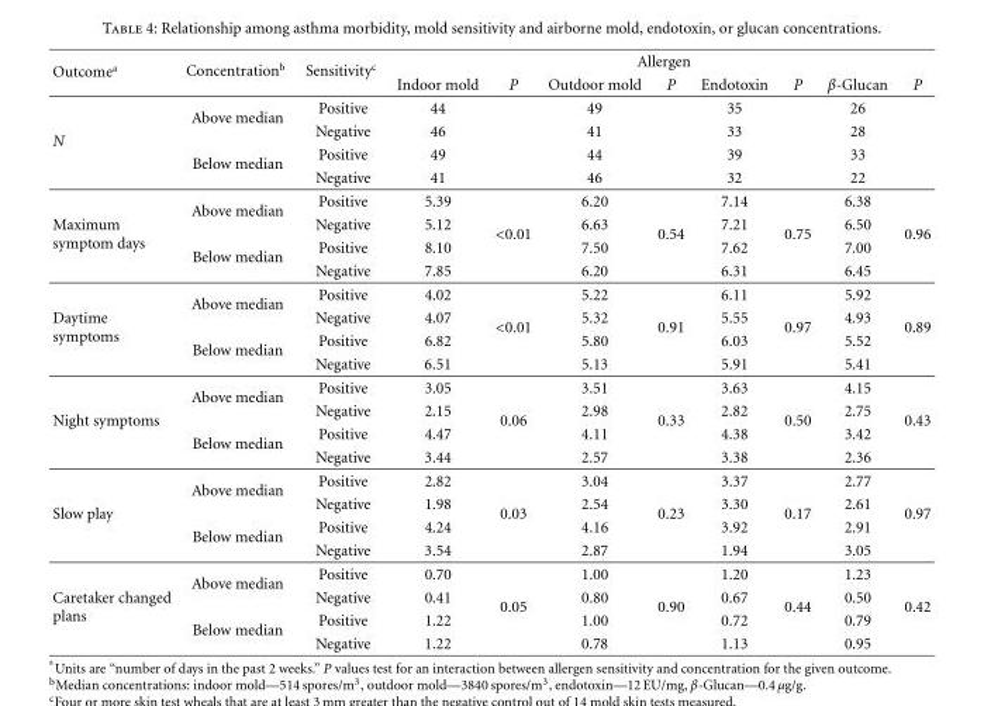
<table><thead><tr><td rowspan="2">Outcome<sup>a</sup></td><td rowspan="2">Concentration<sup>b</sup></td><td rowspan="2">Sensitivity<sup>c</sup></td><td colspan="8">Allergen</td></tr><tr><td>Indoor mold</td><td>P</td><td>Outdoor mold</td><td>P</td><td>Endotoxin</td><td>P</td><td>β-Glucan</td><td>P</td></tr></thead><tbody><tr><td rowspan="4">N</td><td rowspan="2">Above median</td><td>Positive</td><td>44</td><td></td><td>49</td><td></td><td>35</td><td></td><td>26</td><td></td></tr><tr><td>Negative</td><td>46</td><td></td><td>41</td><td></td><td>33</td><td></td><td>28</td><td></td></tr><tr><td rowspan="2">Below median</td><td>Positive</td><td>49</td><td></td><td>44</td><td></td><td>39</td><td></td><td>33</td><td></td></tr><tr><td>Negative</td><td>41</td><td></td><td>46</td><td></td><td>32</td><td></td><td>22</td><td></td></tr><tr><td rowspan="4">Maximum symptom days</td><td rowspan="2">Above median</td><td>Positive</td><td>5.39</td><td></td><td>6.20</td><td></td><td>7.14</td><td></td><td>6.38</td><td></td></tr><tr><td>Negative</td><td>5.12</td><td rowspan="2">&lt;0.01</td><td>6.63</td><td rowspan="2">0.54</td><td>7.21</td><td rowspan="2">0.75</td><td>6.50</td><td rowspan="2">0.96</td></tr><tr><td rowspan="2">Below median</td><td>Positive</td><td>8.10</td><td>7.50</td><td>7.62</td><td>7.00</td></tr><tr><td>Negative</td><td>7.85</td><td></td><td>6.20</td><td></td><td>6.31</td><td></td><td>6.45</td><td></td></tr><tr><td rowspan="4">Daytime symptoms</td><td rowspan="2">Above median</td><td>Positive</td><td>4.02</td><td></td><td>5.22</td><td></td><td>6.11</td><td></td><td>5.92</td><td></td></tr><tr><td>Negative</td><td>4.07</td><td rowspan="2">&lt;0.01</td><td>5.32</td><td rowspan="2">0.91</td><td>5.55</td><td rowspan="2">0.97</td><td>4.93</td><td rowspan="2">0.89</td></tr><tr><td rowspan="2">Below median</td><td>Positive</td><td>6.82</td><td>5.80</td><td>6.03</td><td>5.52</td></tr><tr><td>Negative</td><td>6.51</td><td></td><td>5.13</td><td></td><td>5.91</td><td></td><td>5.41</td><td></td></tr><tr><td rowspan="4">Night symptoms</td><td rowspan="2">Above median</td><td>Positive</td><td>3.05</td><td></td><td>3.51</td><td></td><td>3.63</td><td></td><td>4.15</td><td></td></tr><tr><td>Negative</td><td>2.15</td><td rowspan="2">0.06</td><td>2.98</td><td rowspan="2">0.33</td><td>2.82</td><td rowspan="2">0.50</td><td>2.75</td><td rowspan="2">0.43</td></tr><tr><td rowspan="2">Below median</td><td>Positive</td><td>4.47</td><td>4.11</td><td>4.38</td><td>3.42</td></tr><tr><td>Negative</td><td>3.44</td><td></td><td>2.57</td><td></td><td>3.38</td><td></td><td>2.36</td><td></td></tr><tr><td rowspan="4">Slow play</td><td rowspan="2">Above median</td><td>Positive</td><td>2.82</td><td></td><td>3.04</td><td></td><td>3.37</td><td></td><td>2.77</td><td></td></tr><tr><td>Negative</td><td>1.98</td><td rowspan="2">0.03</td><td>2.54</td><td rowspan="2">0.23</td><td>3.30</td><td rowspan="2">0.17</td><td>2.61</td><td rowspan="2">0.97</td></tr><tr><td rowspan="2">Below median</td><td>Positive</td><td>4.24</td><td>4.16</td><td>3.92</td><td>2.91</td></tr><tr><td>Negative</td><td>3.54</td><td></td><td>2.87</td><td></td><td>1.94</td><td></td><td>3.05</td><td></td></tr><tr><td rowspan="4">Caretaker changed plans</td><td rowspan="2">Above median</td><td>Positive</td><td>0.70</td><td></td><td>1.00</td><td></td><td>1.20</td><td></td><td>1.23</td><td></td></tr><tr><td>Negative</td><td>0.41</td><td rowspan="2">0.05</td><td>0.80</td><td rowspan="2">0.90</td><td>0.67</td><td rowspan="2">0.44</td><td>0.50</td><td rowspan="2">0.42</td></tr><tr><td rowspan="2">Below median</td><td>Positive</td><td>1.22</td><td>1.00</td><td>0.72</td><td>0.79</td></tr><tr><td>Negative</td><td>1.22</td><td></td><td>0.78</td><td></td><td>1.13</td><td></td><td>0.95</td><td></td></tr></tbody></table>